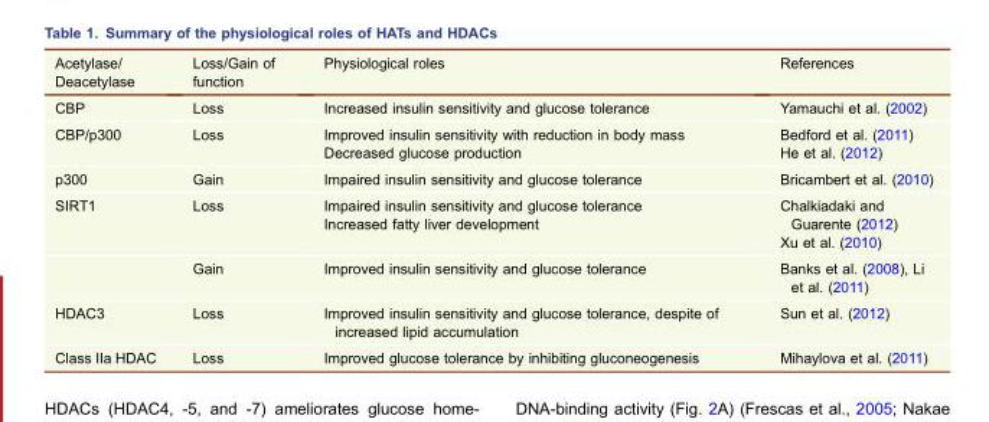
<table><thead><tr><td>Acetylase/ Deacetylase</td><td>Loss/Gain of function</td><td>Physiological roles</td><td>References</td></tr></thead><tbody><tr><td>CBP</td><td>Loss</td><td>Increased insulin sensitivity and glucose tolerance</td><td>Yamauchi et al. (2002)</td></tr><tr><td>CBP/p300</td><td>Loss</td><td>Improved insulin sensitivity with reduction in body mass Decreased glucose production</td><td>Bedford et al. (2011) He et al. (2012)</td></tr><tr><td>p300</td><td>Gain</td><td>Impaired insulin sensitivity and glucose tolerance</td><td>Bricambert et al. (2010)</td></tr><tr><td rowspan="2">SIRT1</td><td>Loss</td><td>Impaired insulin sensitivity and glucose tolerance Increased fatty liver development</td><td>Chalkiadaki and Guarente (2012) Xu et al. (2010)</td></tr><tr><td>Gain</td><td>Improved insulin sensitivity and glucose tolerance</td><td>Banks et al. (2008), Li et al. (2011)</td></tr><tr><td>HDAC3</td><td>Loss</td><td>Improved insulin sensitivity and glucose tolerance, despite of increased lipid accumulation</td><td>Sun et al. (2012)</td></tr><tr><td>Class IIa HDAC</td><td>Loss</td><td>Improved glucose tolerance by inhibiting gluconeogenesis</td><td>Mihaylova et al. (2011)</td></tr></tbody></table>